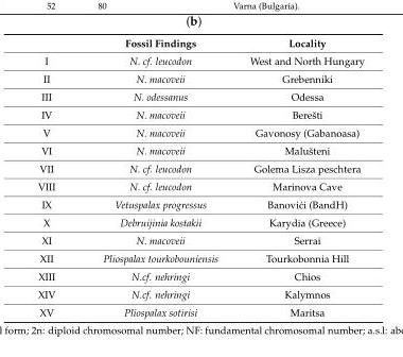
<table><thead><tr><td></td><td>Fossil Findings</td><td>Locality</td></tr></thead><tbody><tr><td>I</td><td>N. cf. leucodon</td><td>West and North Hungary</td></tr><tr><td>II</td><td>N. macoveii</td><td>Grebenniki</td></tr><tr><td>III</td><td>N. odessanus</td><td>Odessa</td></tr><tr><td>IV</td><td>N. macoveii</td><td>Berešti</td></tr><tr><td>V</td><td>N. macoveii</td><td>Gavonosy (Gabanoasa)</td></tr><tr><td>VI</td><td>N. macoveii</td><td>Malušteni</td></tr><tr><td>VII</td><td>N. cf. leucodon</td><td>Golema Lisza peschtera</td></tr><tr><td>VIII</td><td>N. cf. leucodon</td><td>Marinova Cave</td></tr><tr><td>IX</td><td>Vetuspalax progressus</td><td>Banovi´ci (BandH)</td></tr><tr><td>X</td><td>Debruijinia kostakii</td><td>Karydia (Greece)</td></tr><tr><td>XI</td><td>N. macoveii</td><td>Serrai</td></tr><tr><td>XII</td><td>Pliospalax tourkobouniensis</td><td>Tourkobonnia Hill</td></tr><tr><td>XIII</td><td>N.cf. nehringi</td><td>Chios</td></tr><tr><td>XIV</td><td>N.cf. nehringi</td><td>Kalymnos</td></tr><tr><td>XV</td><td>Pliospalax sotirisi</td><td>Maritsa</td></tr></tbody></table>